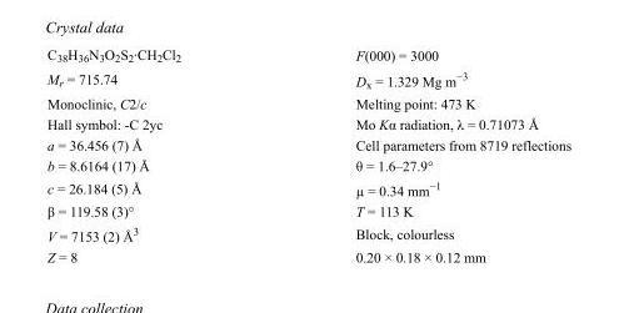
<table><tbody><tr><td>C<sub>38</sub>H<sub>36</sub>N<sub>3</sub>O<sub>2</sub>S<sub>2</sub>·CH<sub>2</sub>Cl<sub>2</sub></td><td>F(000) = 3000</td></tr><tr><td>M<sub>r</sub> = 715.74</td><td>D<sub>x</sub> = 1.329 Mg m<sup>−3</sup></td></tr><tr><td>Monoclinic, C2/c</td><td>Melting point: 473 K</td></tr><tr><td>Hall symbol: -C 2yc</td><td>Mo Kα radiation, λ = 0.71073 Å</td></tr><tr><td>a = 36.456 (7) Å</td><td>Cell parameters from 8719 reflections</td></tr><tr><td>b = 8.6164 (17) Å</td><td>θ = 1.6–27.9°</td></tr><tr><td>c = 26.184 (5) Å</td><td>µ = 0.34 mm<sup>−1</sup></td></tr><tr><td>β = 119.58 (3)°</td><td>T = 113 K</td></tr><tr><td>V = 7153 (2) Å<sup>3</sup></td><td>Block, colourless</td></tr><tr><td>Z = 8</td><td>0.20 × 0.18 × 0.12 mm</td></tr></tbody></table>